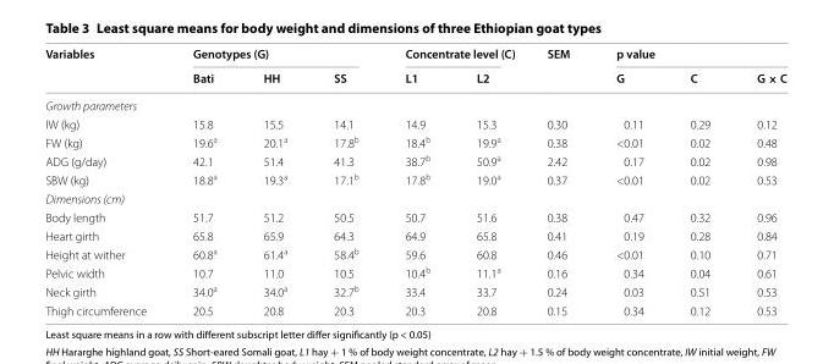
<table><thead><tr><td rowspan="2">Variables</td><td colspan="3">Genotypes (G)</td><td colspan="2">Concentrate level (C)</td><td rowspan="2">SEM</td><td colspan="3">p value</td></tr><tr><td>Bati</td><td>HH</td><td>SS</td><td>L1</td><td>L2</td><td>G</td><td>C</td><td>G × C</td></tr></thead><tbody><tr><td colspan="10">Growth parameters</td></tr><tr><td>IW (kg)</td><td>15.8</td><td>15.5</td><td>14.1</td><td>14.9</td><td>15.3</td><td>0.30</td><td>0.11</td><td>0.29</td><td>0.12</td></tr><tr><td>FW (kg)</td><td>19.6<sup>a</sup></td><td>20.1<sup>a</sup></td><td>17.8<sup>b</sup></td><td>18.4<sup>b</sup></td><td>19.9<sup>a</sup></td><td>0.38</td><td>&lt;0.01</td><td>0.02</td><td>0.48</td></tr><tr><td>ADG (g/day)</td><td>42.1</td><td>51.4</td><td>41.3</td><td>38.7<sup>b</sup></td><td>50.9<sup>a</sup></td><td>2.42</td><td>0.17</td><td>0.02</td><td>0.98</td></tr><tr><td>SBW (kg)</td><td>18.8<sup>a</sup></td><td>19.3<sup>a</sup></td><td>17.1<sup>b</sup></td><td>17.8<sup>b</sup></td><td>19.0<sup>a</sup></td><td>0.37</td><td>&lt;0.01</td><td>0.02</td><td>0.53</td></tr><tr><td colspan="10">Dimensions (cm)</td></tr><tr><td>Body length</td><td>51.7</td><td>51.2</td><td>50.5</td><td>50.7</td><td>51.6</td><td>0.38</td><td>0.47</td><td>0.32</td><td>0.96</td></tr><tr><td>Heart girth</td><td>65.8</td><td>65.9</td><td>64.3</td><td>64.9</td><td>65.8</td><td>0.41</td><td>0.19</td><td>0.28</td><td>0.84</td></tr><tr><td>Height at wither</td><td>60.8<sup>a</sup></td><td>61.4<sup>a</sup></td><td>58.4<sup>b</sup></td><td>59.6</td><td>60.8</td><td>0.46</td><td>&lt;0.01</td><td>0.10</td><td>0.71</td></tr><tr><td>Pelvic width</td><td>10.7</td><td>11.0</td><td>10.5</td><td>10.4<sup>b</sup></td><td>11.1<sup>a</sup></td><td>0.16</td><td>0.34</td><td>0.04</td><td>0.61</td></tr><tr><td>Neck girth</td><td>34.0<sup>a</sup></td><td>34.0<sup>a</sup></td><td>32.7<sup>b</sup></td><td>33.4</td><td>33.7</td><td>0.24</td><td>0.03</td><td>0.51</td><td>0.53</td></tr><tr><td>Thigh circumference</td><td>20.5</td><td>20.8</td><td>20.3</td><td>20.3</td><td>20.8</td><td>0.15</td><td>0.34</td><td>0.12</td><td>0.53</td></tr></tbody></table>